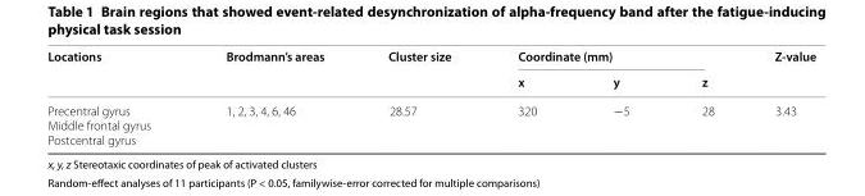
<table><thead><tr><td rowspan="2">Locations</td><td rowspan="2">Brodmann’s areas</td><td rowspan="2">Cluster size</td><td colspan="3">Coordinate (mm)</td><td rowspan="2">Z‑value</td></tr><tr><td>x</td><td>y</td><td>z</td></tr></thead><tbody><tr><td>Precentral gyrus Middle frontal gyrus Postcentral gyrus</td><td>1, 2, 3, 4, 6, 46</td><td>28.57</td><td>320</td><td>−5</td><td>28</td><td>3.43</td></tr></tbody></table>